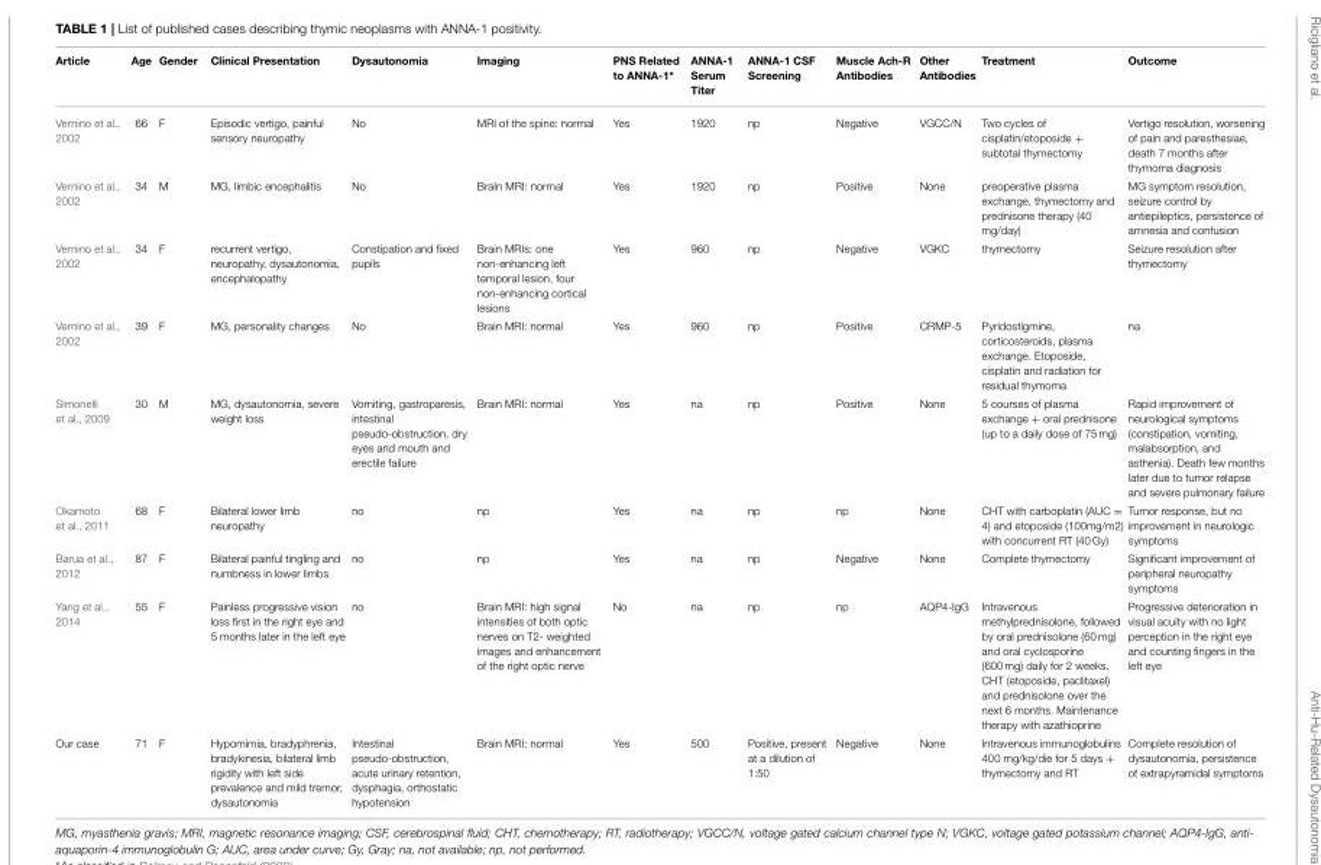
<table><thead><tr><td>Article</td><td>Age</td><td>Gender</td><td>Clinical Presentation</td><td>Dysautonomia</td><td>Imaging</td><td>PNS Related to ANNA-1*</td><td>ANNA-1 Serum Titer</td><td>ANNA-1 CSF Screening</td><td>Muscle Ach-R Antibodies</td><td>Other Antibodies</td><td>Treatment</td><td>Outcome</td></tr></thead><tbody><tr><td>Vernino et al., 2002</td><td>66</td><td>F</td><td>Episodic vertigo, painful sensory neuropathy</td><td>No</td><td>MRI of the spine: normal</td><td>Yes</td><td>1920</td><td>np</td><td>Negative</td><td>VGCC/N</td><td>Two cycles of cisplatin/etoposide + subtotal thymectomy</td><td>Vertigo resolution, worsening of pain and paresthesiae, death 7 months after thymoma diagnosis</td></tr><tr><td>Vernino et al., 2002</td><td>34</td><td>M</td><td>MG, limbic encephalitis</td><td>No</td><td>BraIn MRI: normal</td><td>Yes</td><td>1920</td><td>np</td><td>Positive</td><td>None</td><td>preoperative plasma exchange, thymectomy and prednisone therapy (40 mg/day)</td><td>MG symptom resolution, seizure control by antiepileptics, persistence of amnesia and confusion</td></tr><tr><td>Vernino et al., 2002</td><td>34</td><td>F</td><td>recurrent vertigo, neuropathy, dysautonomia, encephalopathy</td><td>Constipation and fixed pupils</td><td>Brain MRIs: one non-enhancing left temporal lesion, four non-enhancing cortical lesions</td><td>Yes</td><td>960</td><td>np</td><td>Negative</td><td>VGKC</td><td>thymectomy</td><td>Seizure resolution after thymectomy</td></tr><tr><td>Vernino et al., 2002</td><td>39</td><td>F</td><td>MG, personality changes</td><td>No</td><td>Brain MRI: normal</td><td>Yes</td><td>960</td><td>np</td><td>Positive</td><td>CRMP-5</td><td>Pyridostigmine, corticosteroids, plasma exchange. Etoposide, cisplatin and radiation for residual thymoma</td><td>na</td></tr><tr><td>Simonelli et al., 2009</td><td>30</td><td>M</td><td>MG, dysautonomia, severe weight loss</td><td>Vomiting, gastroparesis, intestinal pseudo-obstruction, dry eyes and mouth and erectile failure</td><td>Brain MRI: normal</td><td>Yes</td><td>na</td><td>np</td><td>Positive</td><td>None</td><td>5 courses of plasma exchange + oral prednisone (up to a daily dose of 75 mg)</td><td>Rapid improvement of neurological symptoms (constipation, vomiting, malabsorption, and asthenia). Death few months later due to tumor relapse and severe pulmonary failure</td></tr><tr><td>Okamoto et al., 2011</td><td>68</td><td>F</td><td>Bilateral lower limb neuropathy</td><td>no</td><td>np</td><td>Yes</td><td>na</td><td>np</td><td>np</td><td>None</td><td>CHT with carboplatin (AUC = 4) and etoposide (100mg/m2) with concurrent RT (40 Gy)</td><td>Tumor response, but no improvement in neurologic symptoms</td></tr><tr><td>Barua et al., 2012</td><td>87</td><td>F</td><td>Bilateral painful tingling and numbness in lower limbs</td><td>no</td><td>np</td><td>Yes</td><td>na</td><td>np</td><td>Negative</td><td>None</td><td>Complete thymectomy</td><td>Significant improvement of peripheral neuropathy symptoms</td></tr><tr><td>Yang et al., 2014</td><td>55</td><td>F</td><td>Painless progressive vision loss first in the right eye and 5 months later in the left eye</td><td>no</td><td>Brain MRI: high signal intensities of both optic nerves on T2- weighted images and enhancement of the right optic nerve</td><td>No</td><td>na</td><td>np</td><td>np</td><td>AQP4-IgG</td><td>Intravenous methylprednisolone, followed by oral prednisolone (60 mg) and oral cyclosporine (600 mg) daily for 2 weeks. CHT (etoposide, paclitaxel) and prednisolone over the next 6 months. Maintenance therapy with azathioprine</td><td>Progressive deterioration in visual acuity with no light perception in the right eye and counting fingers in the left eye</td></tr><tr><td>Our case</td><td>71</td><td>F</td><td>Hypomimia, bradyphrenia, bradykinesia, bilateral limb rigidity with left side prevalence and mild tremor, dysautonomia</td><td>Intestinal pseudo-obstruction, acute urinary retention, dysphagia, orthostatic hypotension</td><td>Brain MRI: normal</td><td>Yes</td><td>500</td><td>Positive, present at a dilution of 1:50</td><td>Negative</td><td>None</td><td>Intravenous immunoglobulins 400 mg/kg/die for 5 days + thymectomy and RT</td><td>Complete resolution of dysautonomia, persistence of extrapyramidal symptoms</td></tr></tbody></table>